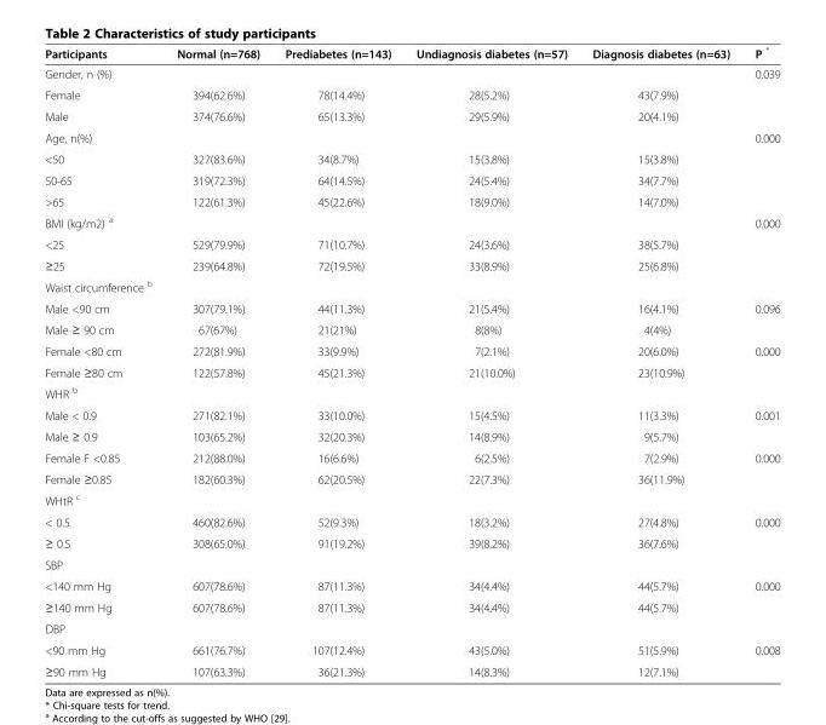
<table><thead><tr><td>Participants</td><td>Normal (n=768)</td><td>Prediabetes (n=143)</td><td>Undiagnosis diabetes (n=57)</td><td>Diagnosis diabetes (n=63)</td><td>P *</td></tr></thead><tbody><tr><td>Gender, n (%)</td><td></td><td></td><td></td><td></td><td>0.039</td></tr><tr><td>Female</td><td>394(62.6%)</td><td>78(14.4%)</td><td>28(5.2%)</td><td>43(7.9%)</td><td></td></tr><tr><td>Male</td><td>374(76.6%)</td><td>65(13.3%)</td><td>29(5.9%)</td><td>20(4.1%)</td><td></td></tr><tr><td>Age, n(%)</td><td></td><td></td><td></td><td></td><td>0.000</td></tr><tr><td>&lt;50</td><td>327(83.6%)</td><td>34(8.7%)</td><td>15(3.8%)</td><td>15(3.8%)</td><td></td></tr><tr><td>50-65</td><td>319(72.3%)</td><td>64(14.5%)</td><td>24(5.4%)</td><td>34(7.7%)</td><td></td></tr><tr><td>&gt;65</td><td>122(61.3%)</td><td>45(22.6%)</td><td>18(9.0%)</td><td>14(7.0%)</td><td></td></tr><tr><td>BMI (kg/m2) <sup>a</sup></td><td></td><td></td><td></td><td></td><td>0.000</td></tr><tr><td>&lt;25</td><td>529(79.9%)</td><td>71(10.7%)</td><td>24(3.6%)</td><td>38(5.7%)</td><td></td></tr><tr><td>≥25</td><td>239(64.8%)</td><td>72(19.5%)</td><td>33(8.9%)</td><td>25(6.8%)</td><td></td></tr><tr><td colspan="6">Waist circumference <sup>b</sup></td></tr><tr><td>Male &lt;90 cm</td><td>307(79.1%)</td><td>44(11.3%)</td><td>21(5.4%)</td><td>16(4.1%)</td><td>0.096</td></tr><tr><td>Male ≥ 90 cm</td><td>67(67%)</td><td>21(21%)</td><td>8(8%)</td><td>4(4%)</td><td></td></tr><tr><td>Female &lt;80 cm</td><td>272(81.9%)</td><td>33(9.9%)</td><td>7(2.1%)</td><td>20(6.0%)</td><td>0.000</td></tr><tr><td>Female ≥80 cm</td><td>122(57.8%)</td><td>45(21.3%)</td><td>21(10.0%)</td><td>23(10.9%)</td><td></td></tr><tr><td colspan="6">WHR <sup>b</sup></td></tr><tr><td>Male &lt; 0.9</td><td>271(82.1%)</td><td>33(10.0%)</td><td>15(4.5%)</td><td>11(3.3%)</td><td>0.001</td></tr><tr><td>Male ≥ 0.9</td><td>103(65.2%)</td><td>32(20.3%)</td><td>14(8.9%)</td><td>9(5.7%)</td><td></td></tr><tr><td>Female F &lt;0.85</td><td>212(88.0%)</td><td>16(6.6%)</td><td>6(2.5%)</td><td>7(2.9%)</td><td>0.000</td></tr><tr><td>Female ≥0.85</td><td>182(60.3%)</td><td>62(20.5%)</td><td>22(7.3%)</td><td>36(11.9%)</td><td></td></tr><tr><td colspan="6">WHtR <sup>c</sup></td></tr><tr><td>&lt; 0.5</td><td>460(82.6%)</td><td>52(9.3%)</td><td>18(3.2%)</td><td>27(4.8%)</td><td>0.000</td></tr><tr><td>≥ 0.5</td><td>308(65.0%)</td><td>91(19.2%)</td><td>39(8.2%)</td><td>36(7.6%)</td><td></td></tr><tr><td colspan="6">SBP</td></tr><tr><td>&lt;140 mm Hg</td><td>607(78.6%)</td><td>87(11.3%)</td><td>34(4.4%)</td><td>44(5.7%)</td><td>0.000</td></tr><tr><td>≥140 mm Hg</td><td>607(78.6%)</td><td>87(11.3%)</td><td>34(4.4%)</td><td>44(5.7%)</td><td></td></tr><tr><td colspan="6">DBP</td></tr><tr><td>&lt;90 mm Hg</td><td>661(76.7%)</td><td>107(12.4%)</td><td>43(5.0%)</td><td>51(5.9%)</td><td>0.008</td></tr><tr><td>≥90 mm Hg</td><td>107(63.3%)</td><td>36(21.3%)</td><td>14(8.3%)</td><td>12(7.1%)</td><td></td></tr></tbody></table>